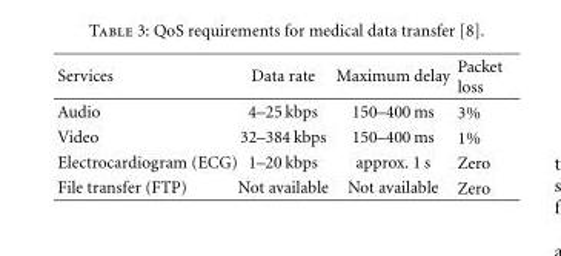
<table><thead><tr><td>Services</td><td>Data rate</td><td>Maximum delay</td><td>Packet loss</td></tr></thead><tbody><tr><td>Audio</td><td>4–25 kbps</td><td>150–400 ms</td><td>3%</td></tr><tr><td>Video</td><td>32–384 kbps</td><td>150–400 ms</td><td>1%</td></tr><tr><td>Electrocardiogram (ECG)</td><td>1–20 kbps</td><td>approx. 1 s</td><td>Zero</td></tr><tr><td>File transfer (FTP)</td><td>Not available</td><td>Not available</td><td>Zero</td></tr></tbody></table>